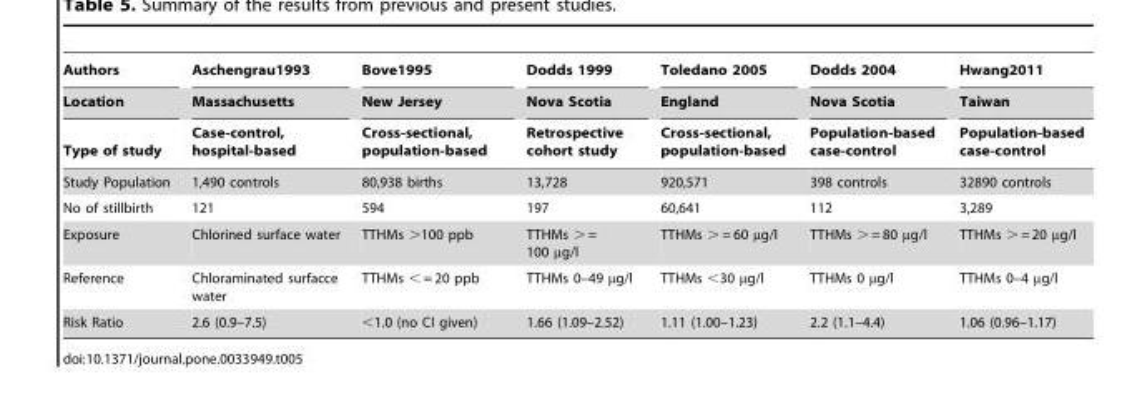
<table><thead><tr><td rowspan="3">Authors Location Type of study</td><td rowspan="3">Aschengrau1993 Massachusetts Case-control, hospital-based</td><td rowspan="3">Bove1995 New Jersey Cross-sectional, population-based</td><td rowspan="3">Dodds 1999 Nova Scotia Retrospective cohort study</td><td rowspan="3">Toledano 2005 England Cross-sectional, population-based</td><td rowspan="3">Dodds 2004 Nova Scotia Population-based case-control</td><td rowspan="3">Hwang2011 Taiwan Population-based case-control</td></tr><tr></tr><tr></tr></thead><tbody><tr><td>Study Population</td><td>1,490 controls</td><td>80,938 births</td><td>13,728</td><td>920,571</td><td>398 controls</td><td>32890 controls</td></tr><tr><td>No of stillbirth</td><td>121</td><td>594</td><td>197</td><td>60,641</td><td>112</td><td>3,289</td></tr><tr><td>Exposure</td><td>Chlorined surface water</td><td>TTHMs &gt;100 ppb</td><td>TTHMs &gt; = 100 µg/l</td><td>TTHMs &gt; = 60 µg/l</td><td>TTHMs &gt; = 80 µg/l</td><td>TTHMs &gt; = 20 µg/l</td></tr><tr><td>Reference</td><td>Chloraminated surfacce water</td><td>TTHMs &lt; = 20 ppb</td><td>TTHMs 0–49 µg/l</td><td>TTHMs &lt;30 µg/l</td><td>TTHMs 0 µg/l</td><td>TTHMs 0–4 µg/l</td></tr><tr><td>Risk Ratio</td><td>2.6 (0.9–7.5)</td><td>&lt;1.0 (no CI given)</td><td>1.66 (1.09–2.52)</td><td>1.11 (1.00–1.23)</td><td>2.2 (1.1–4.4)</td><td>1.06 (0.96–1.17)</td></tr></tbody></table>